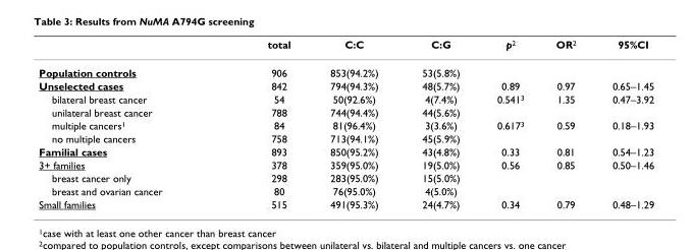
<table><thead><tr><td></td><td>total</td><td>C:C</td><td>C:G</td><td>p<sup>2</sup></td><td>OR<sup>2</sup></td><td>95%CI</td></tr></thead><tbody><tr><td>Population controls</td><td>906</td><td>853(94.2%)</td><td>53(5.8%)</td><td></td><td></td><td></td></tr><tr><td>Unselected cases</td><td>842</td><td>794(94.3%)</td><td>48(5.7%)</td><td>0.89</td><td>0.97</td><td>0.65–1.45</td></tr><tr><td>bilateral breast cancer</td><td>54</td><td>50(92.6%)</td><td>4(7.4%)</td><td>0.541<sup>3</sup></td><td>1.35</td><td>0.47–3.92</td></tr><tr><td>unilateral breast cancer</td><td>788</td><td>744(94.4%)</td><td>44(5.6%)</td><td></td><td></td><td></td></tr><tr><td>multiple cancers<sup>1</sup></td><td>84</td><td>81(96.4%)</td><td>3(3.6%)</td><td>0.617<sup>3</sup></td><td>0.59</td><td>0.18–1.93</td></tr><tr><td>no multiple cancers</td><td>758</td><td>713(94.1%)</td><td>45(5.9%)</td><td></td><td></td><td></td></tr><tr><td>Familial cases</td><td>893</td><td>850(95.2%)</td><td>43(4.8%)</td><td>0.33</td><td>0.81</td><td>0.54–1.23</td></tr><tr><td>3+ families</td><td>378</td><td>359(95.0%)</td><td>19(5.0%)</td><td>0.56</td><td>0.85</td><td>0.50–1.46</td></tr><tr><td>breast cancer only</td><td>298</td><td>283(95.0%)</td><td>15(5.0%)</td><td></td><td></td><td></td></tr><tr><td>breast and ovarian cancer</td><td>80</td><td>76(95.0%)</td><td>4(5.0%)</td><td></td><td></td><td></td></tr><tr><td>Small families</td><td>515</td><td>491(95.3%)</td><td>24(4.7%)</td><td>0.34</td><td>0.79</td><td>0.48–1.29</td></tr></tbody></table>